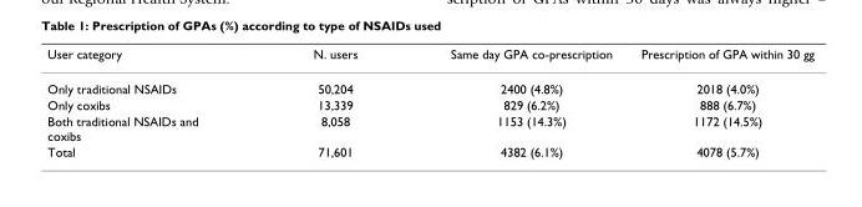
<table><thead><tr><td>User category</td><td>N. users</td><td>Same day GPA co-prescription</td><td>Prescription of GPA within 30 gg</td></tr></thead><tbody><tr><td>Only traditional NSAIDs</td><td>50,204</td><td>2400 (4.8%)</td><td>2018 (4.0%)</td></tr><tr><td>Only coxibs</td><td>13,339</td><td>829 (6.2%)</td><td>888 (6.7%)</td></tr><tr><td>Both traditional NSAIDs and coxibs</td><td>8,058</td><td>1153 (14.3%)</td><td>1172 (14.5%)</td></tr><tr><td>Total</td><td>71,601</td><td>4382 (6.1%)</td><td>4078 (5.7%)</td></tr></tbody></table>